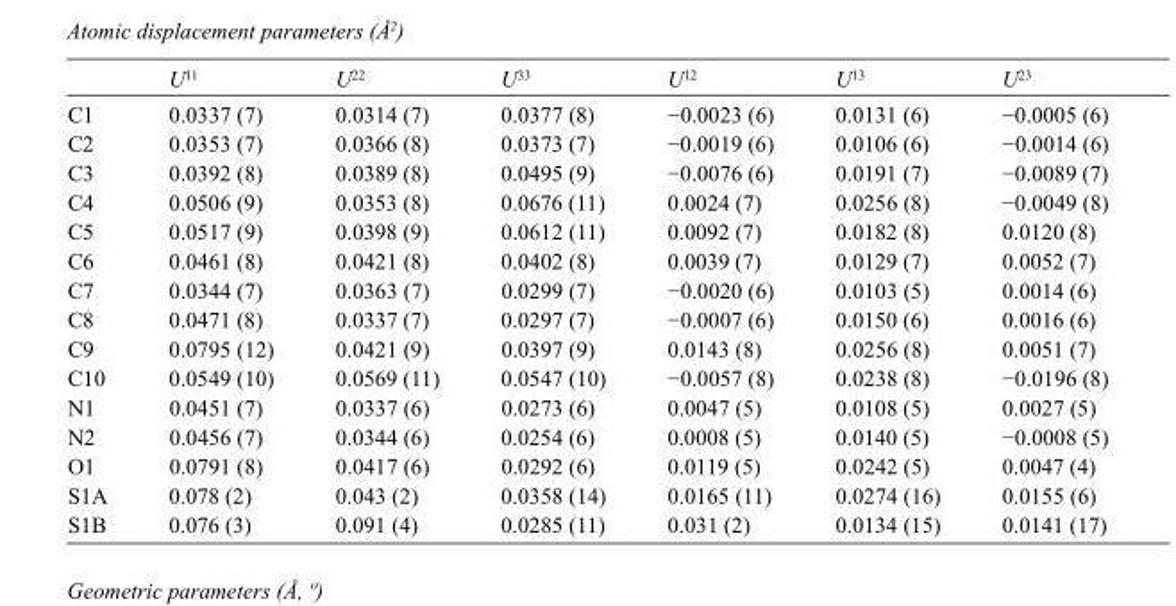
<table><thead><tr><td></td><td>U<sup>11</sup></td><td>U<sup>22</sup></td><td>U<sup>33</sup></td><td>U<sup>12</sup></td><td>U<sup>13</sup></td><td>U<sup>23</sup></td></tr></thead><tbody><tr><td>C1</td><td>0.0337 (7)</td><td>0.0314 (7)</td><td>0.0377 (8)</td><td>−0.0023 (6)</td><td>0.0131 (6)</td><td>−0.0005 (6)</td></tr><tr><td>C2</td><td>0.0353 (7)</td><td>0.0366 (8)</td><td>0.0373 (7)</td><td>−0.0019 (6)</td><td>0.0106 (6)</td><td>−0.0014 (6)</td></tr><tr><td>C3</td><td>0.0392 (8)</td><td>0.0389 (8)</td><td>0.0495 (9)</td><td>−0.0076 (6)</td><td>0.0191 (7)</td><td>−0.0089 (7)</td></tr><tr><td>C4</td><td>0.0506 (9)</td><td>0.0353 (8)</td><td>0.0676 (11)</td><td>0.0024 (7)</td><td>0.0256 (8)</td><td>−0.0049 (8)</td></tr><tr><td>C5</td><td>0.0517 (9)</td><td>0.0398 (9)</td><td>0.0612 (11)</td><td>0.0092 (7)</td><td>0.0182 (8)</td><td>0.0120 (8)</td></tr><tr><td>C6</td><td>0.0461 (8)</td><td>0.0421 (8)</td><td>0.0402 (8)</td><td>0.0039 (7)</td><td>0.0129 (7)</td><td>0.0052 (7)</td></tr><tr><td>C7</td><td>0.0344 (7)</td><td>0.0363 (7)</td><td>0.0299 (7)</td><td>−0.0020 (6)</td><td>0.0103 (5)</td><td>0.0014 (6)</td></tr><tr><td>C8</td><td>0.0471 (8)</td><td>0.0337 (7)</td><td>0.0297 (7)</td><td>−0.0007 (6)</td><td>0.0150 (6)</td><td>0.0016 (6)</td></tr><tr><td>C9</td><td>0.0795 (12)</td><td>0.0421 (9)</td><td>0.0397 (9)</td><td>0.0143 (8)</td><td>0.0256 (8)</td><td>0.0051 (7)</td></tr><tr><td>C10</td><td>0.0549 (10)</td><td>0.0569 (11)</td><td>0.0547 (10)</td><td>−0.0057 (8)</td><td>0.0238 (8)</td><td>−0.0196 (8)</td></tr><tr><td>N1</td><td>0.0451 (7)</td><td>0.0337 (6)</td><td>0.0273 (6)</td><td>0.0047 (5)</td><td>0.0108 (5)</td><td>0.0027 (5)</td></tr><tr><td>N2</td><td>0.0456 (7)</td><td>0.0344 (6)</td><td>0.0254 (6)</td><td>0.0008 (5)</td><td>0.0140 (5)</td><td>−0.0008 (5)</td></tr><tr><td>O1</td><td>0.0791 (8)</td><td>0.0417 (6)</td><td>0.0292 (6)</td><td>0.0119 (5)</td><td>0.0242 (5)</td><td>0.0047 (4)</td></tr><tr><td>S1A</td><td>0.078 (2)</td><td>0.043 (2)</td><td>0.0358 (14)</td><td>0.0165 (11)</td><td>0.0274 (16)</td><td>0.0155 (6)</td></tr><tr><td>S1B</td><td>0.076 (3)</td><td>0.091 (4)</td><td>0.0285 (11)</td><td>0.031 (2)</td><td>0.0134 (15)</td><td>0.0141 (17)</td></tr></tbody></table>